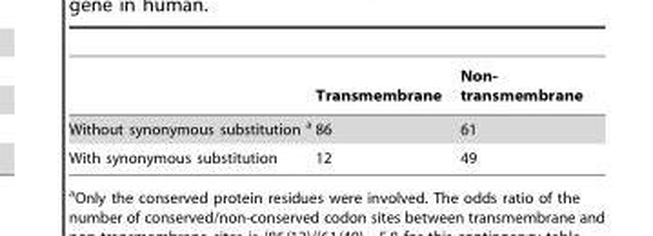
<table><thead><tr><td></td><td>Transmembrane</td><td>Non- transmembrane</td></tr></thead><tbody><tr><td>Without synonymous substitution a</td><td>86</td><td>61</td></tr><tr><td>With synonymous substitution</td><td>12</td><td>49</td></tr></tbody></table>